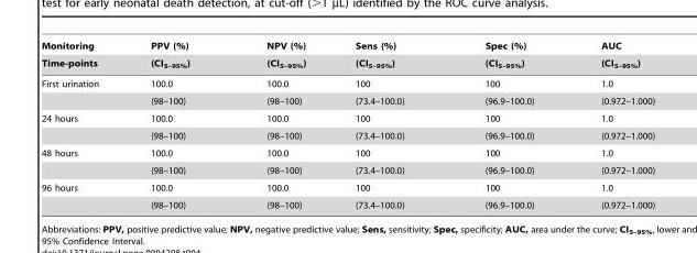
<table><thead><tr><td rowspan="2">Monitoring Time-points</td><td rowspan="2">PPV (%) (CI<sub>5–95%</sub>)</td><td rowspan="2">NPV (%) (CI<sub>5–95%</sub>)</td><td rowspan="2">Sens (%) (CI<sub>5–95%</sub>)</td><td rowspan="2">Spec (%) (CI<sub>5–95%</sub>)</td><td rowspan="2">AUC (CI<sub>5–95%</sub>)</td></tr><tr></tr></thead><tbody><tr><td rowspan="2">First urination</td><td>100.0</td><td>100.0</td><td>100</td><td>100</td><td>1.0</td></tr><tr><td>(98–100)</td><td>(98–100)</td><td>(73.4–100.0)</td><td>(96.9–100.0)</td><td>(0.972–1.000)</td></tr><tr><td rowspan="2">24 hours</td><td>100.0</td><td>100.0</td><td>100</td><td>100</td><td>1.0</td></tr><tr><td>(98–100)</td><td>(98–100)</td><td>(73.4–100.0)</td><td>(96.9–100.0)</td><td>(0.972–1.000)</td></tr><tr><td rowspan="2">48 hours</td><td>100.0</td><td>100.0</td><td>100</td><td>100</td><td>1.0</td></tr><tr><td>(98–100)</td><td>(98–100)</td><td>(73.4–100.0)</td><td>(96.9–100.0)</td><td>(0.972–1.000)</td></tr><tr><td rowspan="2">96 hours</td><td>100.0</td><td>100.0</td><td>100</td><td>100</td><td>1.0</td></tr><tr><td>(98–100)</td><td>(98–100)</td><td>(73.4–100.0)</td><td>(96.9–100.0)</td><td>(0.972–1.000)</td></tr></tbody></table>